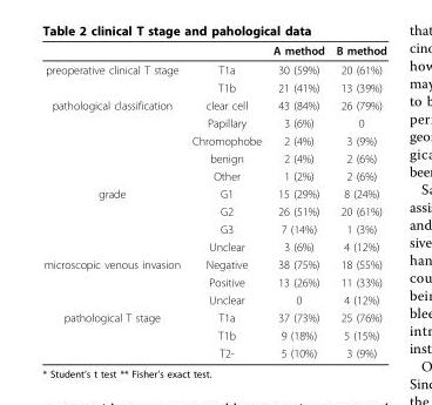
<table><thead><tr><td></td><td></td><td>A method</td><td>B method</td></tr></thead><tbody><tr><td rowspan="2">preoperative clinical T stage</td><td>T1a</td><td>30 (59%)</td><td>20 (61%)</td></tr><tr><td>T1b</td><td>21 (41%)</td><td>13 (39%)</td></tr><tr><td rowspan="5">pathological classification</td><td>clear cell</td><td>43 (84%)</td><td>26 (79%)</td></tr><tr><td>Papillary</td><td>3 (6%)</td><td>0</td></tr><tr><td>Chromophobe</td><td>2 (4%)</td><td>3 (9%)</td></tr><tr><td>benign</td><td>2 (4%)</td><td>2 (6%)</td></tr><tr><td>Other</td><td>1 (2%)</td><td>2 (6%)</td></tr><tr><td rowspan="4">grade</td><td>G1</td><td>15 (29%)</td><td>8 (24%)</td></tr><tr><td>G2</td><td>26 (51%)</td><td>20 (61%)</td></tr><tr><td>G3</td><td>7 (14%)</td><td>1 (3%)</td></tr><tr><td>Unclear</td><td>3 (6%)</td><td>4 (12%)</td></tr><tr><td rowspan="3">microscopic venous invasion</td><td>Negative</td><td>38 (75%)</td><td>18 (55%)</td></tr><tr><td>Positive</td><td>13 (26%)</td><td>11 (33%)</td></tr><tr><td>Unclear</td><td>0</td><td>4 (12%)</td></tr><tr><td rowspan="3">pathological T stage</td><td>T1a</td><td>37 (73%)</td><td>25 (76%)</td></tr><tr><td>T1b</td><td>9 (18%)</td><td>5 (15%)</td></tr><tr><td>T2-</td><td>5 (10%)</td><td>3 (9%)</td></tr></tbody></table>